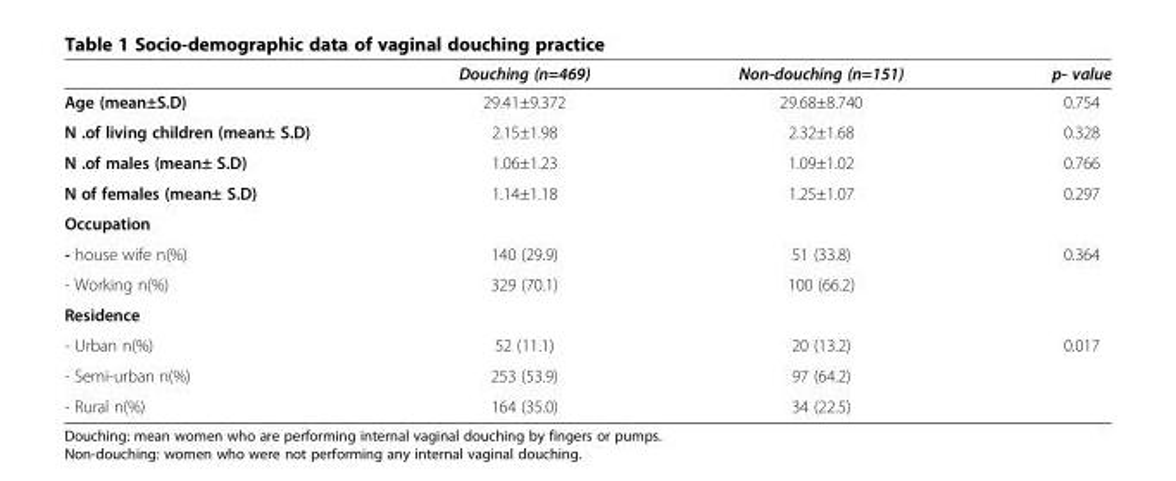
<table><thead><tr><td></td><td>Douching (n=469)</td><td>Non-douching (n=151)</td><td>p- value</td></tr></thead><tbody><tr><td>Age (mean±S.D)</td><td>29.41±9.372</td><td>29.68±8.740</td><td>0.754</td></tr><tr><td>N .of living children (mean± S.D)</td><td>2.15±1.98</td><td>2.32±1.68</td><td>0.328</td></tr><tr><td>N .of males (mean± S.D)</td><td>1.06±1.23</td><td>1.09±1.02</td><td>0.766</td></tr><tr><td>N of females (mean± S.D)</td><td>1.14±1.18</td><td>1.25±1.07</td><td>0.297</td></tr><tr><td colspan="4">Occupation</td></tr><tr><td>- house wife n(%)</td><td>140 (29.9)</td><td>51 (33.8)</td><td>0.364</td></tr><tr><td>- Working n(%)</td><td>329 (70.1)</td><td>100 (66.2)</td><td></td></tr><tr><td colspan="4">Residence</td></tr><tr><td>- Urban n(%)</td><td>52 (11.1)</td><td>20 (13.2)</td><td>0.017</td></tr><tr><td>- Semi-urban n(%)</td><td>253 (53.9)</td><td>97 (64.2)</td><td></td></tr><tr><td>- Rural n(%)</td><td>164 (35.0)</td><td>34 (22.5)</td><td></td></tr></tbody></table>